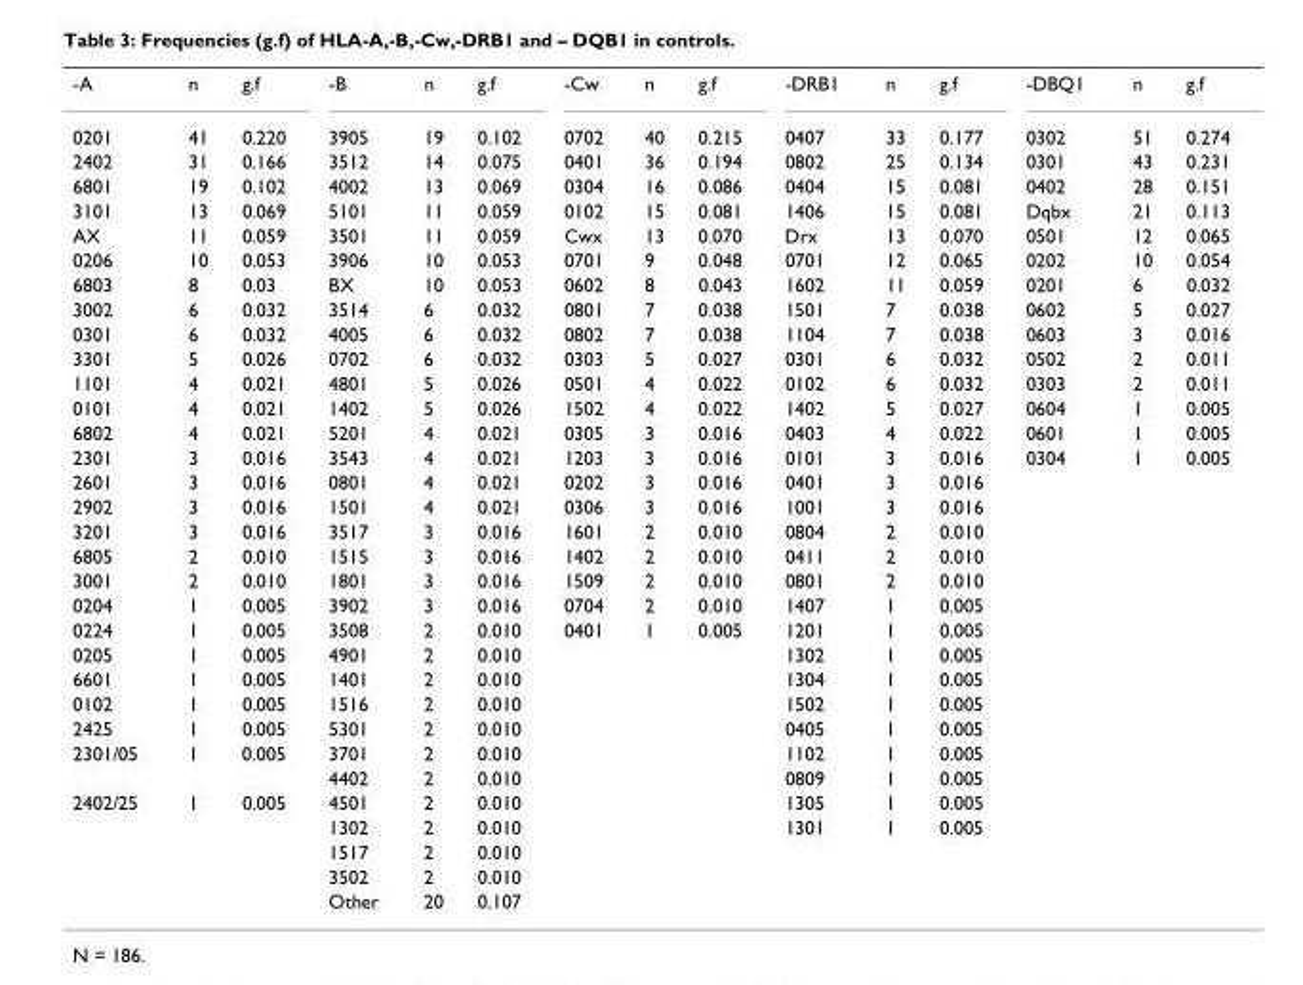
<table><tbody><tr><td>-A</td><td>n</td><td>g.f</td><td>-B</td><td>n</td><td>g.f</td><td>-Cw</td><td>n</td><td>g.f</td><td>-DRB1</td><td>n</td><td>g.f</td><td>-DBQ1</td><td>n</td><td>g.f</td></tr><tr><td>0201</td><td>41</td><td>0.220</td><td>3905</td><td>19</td><td>0.102</td><td>0702</td><td>40</td><td>0.215</td><td>0407</td><td>33</td><td>0.177</td><td>0302</td><td>51</td><td>0.274</td></tr><tr><td>2402</td><td>31</td><td>0.166</td><td>3512</td><td>14</td><td>0.075</td><td>0401</td><td>36</td><td>0.194</td><td>0802</td><td>25</td><td>0.134</td><td>0301</td><td>43</td><td>0.231</td></tr><tr><td>6801</td><td>19</td><td>0.102</td><td>4002</td><td>13</td><td>0.069</td><td>0304</td><td>16</td><td>0.086</td><td>0404</td><td>15</td><td>0.081</td><td>0402</td><td>28</td><td>0.151</td></tr><tr><td>3101</td><td>13</td><td>0.069</td><td>5101</td><td>11</td><td>0.059</td><td>0102</td><td>15</td><td>0.081</td><td>1406</td><td>15</td><td>0.081</td><td>Dqbx</td><td>21</td><td>0.113</td></tr><tr><td>AX</td><td>11</td><td>0.059</td><td>3501</td><td>11</td><td>0.059</td><td>Cwx</td><td>13</td><td>0.070</td><td>Drx</td><td>13</td><td>0.070</td><td>0501</td><td>12</td><td>0.065</td></tr><tr><td>0206</td><td>10</td><td>0.053</td><td>3906</td><td>10</td><td>0.053</td><td>0701</td><td>9</td><td>0.048</td><td>0701</td><td>12</td><td>0.065</td><td>0202</td><td>10</td><td>0.054</td></tr><tr><td>6803</td><td>8</td><td>0.03</td><td>BX</td><td>10</td><td>0.053</td><td>0602</td><td>8</td><td>0.043</td><td>1602</td><td>11</td><td>0.059</td><td>0201</td><td>6</td><td>0.032</td></tr><tr><td>3002</td><td>6</td><td>0.032</td><td>3514</td><td>6</td><td>0.032</td><td>0801</td><td>7</td><td>0.038</td><td>1501</td><td>7</td><td>0.038</td><td>0602</td><td>5</td><td>0.027</td></tr><tr><td>0301</td><td>6</td><td>0.032</td><td>4005</td><td>6</td><td>0.032</td><td>0802</td><td>7</td><td>0.038</td><td>1104</td><td>7</td><td>0.038</td><td>0603</td><td>3</td><td>0.016</td></tr><tr><td>3301</td><td>5</td><td>0.026</td><td>0702</td><td>6</td><td>0.032</td><td>0303</td><td>5</td><td>0.027</td><td>0301</td><td>6</td><td>0.032</td><td>0502</td><td>2</td><td>0.011</td></tr><tr><td>1101</td><td>4</td><td>0.021</td><td>4801</td><td>5</td><td>0.026</td><td>0501</td><td>4</td><td>0.022</td><td>0102</td><td>6</td><td>0.032</td><td>0303</td><td>2</td><td>0.011</td></tr><tr><td>0101</td><td>4</td><td>0.021</td><td>1402</td><td>5</td><td>0.026</td><td>1502</td><td>4</td><td>0.022</td><td>1402</td><td>5</td><td>0.027</td><td>0604</td><td>1</td><td>0.005</td></tr><tr><td>6802</td><td>4</td><td>0.021</td><td>5201</td><td>4</td><td>0.021</td><td>0305</td><td>3</td><td>0.016</td><td>0403</td><td>4</td><td>0.022</td><td>0601</td><td>1</td><td>0.005</td></tr><tr><td>2301</td><td>3</td><td>0.016</td><td>3543</td><td>4</td><td>0.021</td><td>1203</td><td>3</td><td>0.016</td><td>0101</td><td>3</td><td>0.016</td><td>0304</td><td>1</td><td>0.005</td></tr><tr><td>2601</td><td>3</td><td>0.016</td><td>0801</td><td>4</td><td>0.021</td><td>0202</td><td>3</td><td>0.016</td><td>0401</td><td>3</td><td>0.016</td><td></td><td></td><td></td></tr><tr><td>2902</td><td>3</td><td>0.016</td><td>1501</td><td>4</td><td>0.021</td><td>0306</td><td>3</td><td>0.016</td><td>1001</td><td>3</td><td>0.016</td><td></td><td></td><td></td></tr><tr><td>3201</td><td>3</td><td>0.016</td><td>3517</td><td>3</td><td>0.016</td><td>1601</td><td>2</td><td>0.010</td><td>0804</td><td>2</td><td>0.010</td><td></td><td></td><td></td></tr><tr><td>6805</td><td>2</td><td>0.010</td><td>1515</td><td>3</td><td>0.016</td><td>1402</td><td>2</td><td>0.010</td><td>0411</td><td>2</td><td>0.010</td><td></td><td></td><td></td></tr><tr><td>3001</td><td>2</td><td>0.010</td><td>1801</td><td>3</td><td>0.016</td><td>1509</td><td>2</td><td>0.010</td><td>0801</td><td>2</td><td>0.010</td><td></td><td></td><td></td></tr><tr><td>0204</td><td>1</td><td>0.005</td><td>3902</td><td>3</td><td>0.016</td><td>0704</td><td>2</td><td>0.010</td><td>1407</td><td>1</td><td>0.005</td><td></td><td></td><td></td></tr><tr><td>0224</td><td>1</td><td>0.005</td><td>3508</td><td>2</td><td>0.010</td><td>0401</td><td>1</td><td>0.005</td><td>1201</td><td>1</td><td>0.005</td><td></td><td></td><td></td></tr><tr><td>0205</td><td>1</td><td>0.005</td><td>4901</td><td>2</td><td>0.010</td><td></td><td></td><td></td><td>1302</td><td>1</td><td>0.005</td><td></td><td></td><td></td></tr><tr><td>6601</td><td>1</td><td>0.005</td><td>1401</td><td>2</td><td>0.010</td><td></td><td></td><td></td><td>1304</td><td>1</td><td>0.005</td><td></td><td></td><td></td></tr><tr><td>0102</td><td>1</td><td>0.005</td><td>1516</td><td>2</td><td>0.010</td><td></td><td></td><td></td><td>1502</td><td>1</td><td>0.005</td><td></td><td></td><td></td></tr><tr><td>2425</td><td>1</td><td>0.005</td><td>5301</td><td>2</td><td>0.010</td><td></td><td></td><td></td><td>0405</td><td>1</td><td>0.005</td><td></td><td></td><td></td></tr><tr><td rowspan="2">2301/05</td><td>1</td><td>0.005</td><td>3701</td><td>2</td><td>0.010</td><td></td><td></td><td></td><td>1102</td><td>1</td><td>0.005</td><td></td><td></td><td></td></tr><tr><td></td><td></td><td>4402</td><td>2</td><td>0.010</td><td></td><td></td><td></td><td>0809</td><td>1</td><td>0.005</td><td></td><td></td><td></td></tr><tr><td rowspan="5">2402/25</td><td>1</td><td>0.005</td><td>4501</td><td>2</td><td>0.010</td><td></td><td></td><td></td><td>1305</td><td>1</td><td>0.005</td><td></td><td></td><td></td></tr><tr><td></td><td></td><td>1302</td><td>2</td><td>0.010</td><td></td><td></td><td></td><td>1301</td><td>1</td><td>0.005</td><td></td><td></td><td></td></tr><tr><td></td><td></td><td>1517</td><td>2</td><td>0.010</td><td></td><td></td><td></td><td></td><td></td><td></td><td></td><td></td><td></td></tr><tr><td></td><td></td><td>3502</td><td>2</td><td>0.010</td><td></td><td></td><td></td><td></td><td></td><td></td><td></td><td></td><td></td></tr><tr><td></td><td></td><td>Other</td><td>20</td><td>0.107</td><td></td><td></td><td></td><td></td><td></td><td></td><td></td><td></td><td></td></tr></tbody></table>